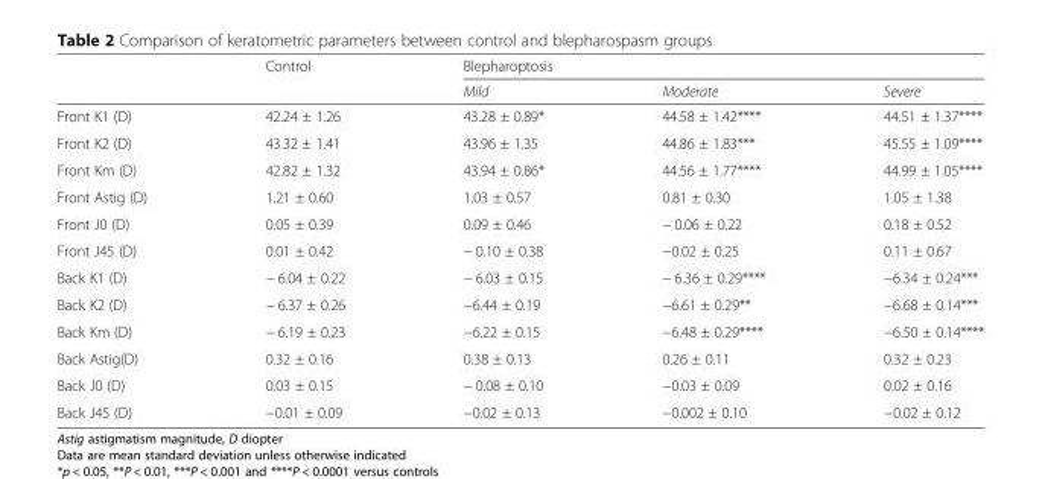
<table><thead><tr><td rowspan="2"></td><td rowspan="2">Control</td><td colspan="3">Blepharoptosis</td></tr><tr><td>Mild</td><td>Moderate</td><td>Severe</td></tr></thead><tbody><tr><td>Front K1 (D)</td><td>42.24 ± 1.26</td><td>43.28 ± 0.89*</td><td>44.58 ± 1.42****</td><td>44.51 ± 1.37****</td></tr><tr><td>Front K2 (D)</td><td>43.32 ± 1.41</td><td>43.96 ± 1.35</td><td>44.86 ± 1.83***</td><td>45.55 ± 1.09****</td></tr><tr><td>Front Km (D)</td><td>42.82 ± 1.32</td><td>43.94 ± 0.86*</td><td>44.56 ± 1.77****</td><td>44.99 ± 1.05****</td></tr><tr><td>Front Astig (D)</td><td>1.21 ± 0.60</td><td>1.03 ± 0.57</td><td>0.81 ± 0.30</td><td>1.05 ± 1.38</td></tr><tr><td>Front J0 (D)</td><td>0.05 ± 0.39</td><td>0.09 ± 0.46</td><td>− 0.06 ± 0.22</td><td>0.18 ± 0.52</td></tr><tr><td>Front J45 (D)</td><td>0.01 ± 0.42</td><td>− 0.10 ± 0.38</td><td>−0.02 ± 0.25</td><td>0.11 ± 0.67</td></tr><tr><td>Back K1 (D)</td><td>− 6.04 ± 0.22</td><td>− 6.03 ± 0.15</td><td>− 6.36 ± 0.29****</td><td>−6.34 ± 0.24***</td></tr><tr><td>Back K2 (D)</td><td>− 6.37 ± 0.26</td><td>−6.44 ± 0.19</td><td>−6.61 ± 0.29**</td><td>−6.68 ± 0.14***</td></tr><tr><td>Back Km (D)</td><td>− 6.19 ± 0.23</td><td>−6.22 ± 0.15</td><td>−6.48 ± 0.29****</td><td>−6.50 ± 0.14****</td></tr><tr><td>Back Astig(D)</td><td>0.32 ± 0.16</td><td>0.38 ± 0.13</td><td>0.26 ± 0.11</td><td>0.32 ± 0.23</td></tr><tr><td>Back J0 (D)</td><td>0.03 ± 0.15</td><td>− 0.08 ± 0.10</td><td>−0.03 ± 0.09</td><td>0.02 ± 0.16</td></tr><tr><td>Back J45 (D)</td><td>−0.01 ± 0.09</td><td>−0.02 ± 0.13</td><td>−0.002 ± 0.10</td><td>−0.02 ± 0.12</td></tr></tbody></table>